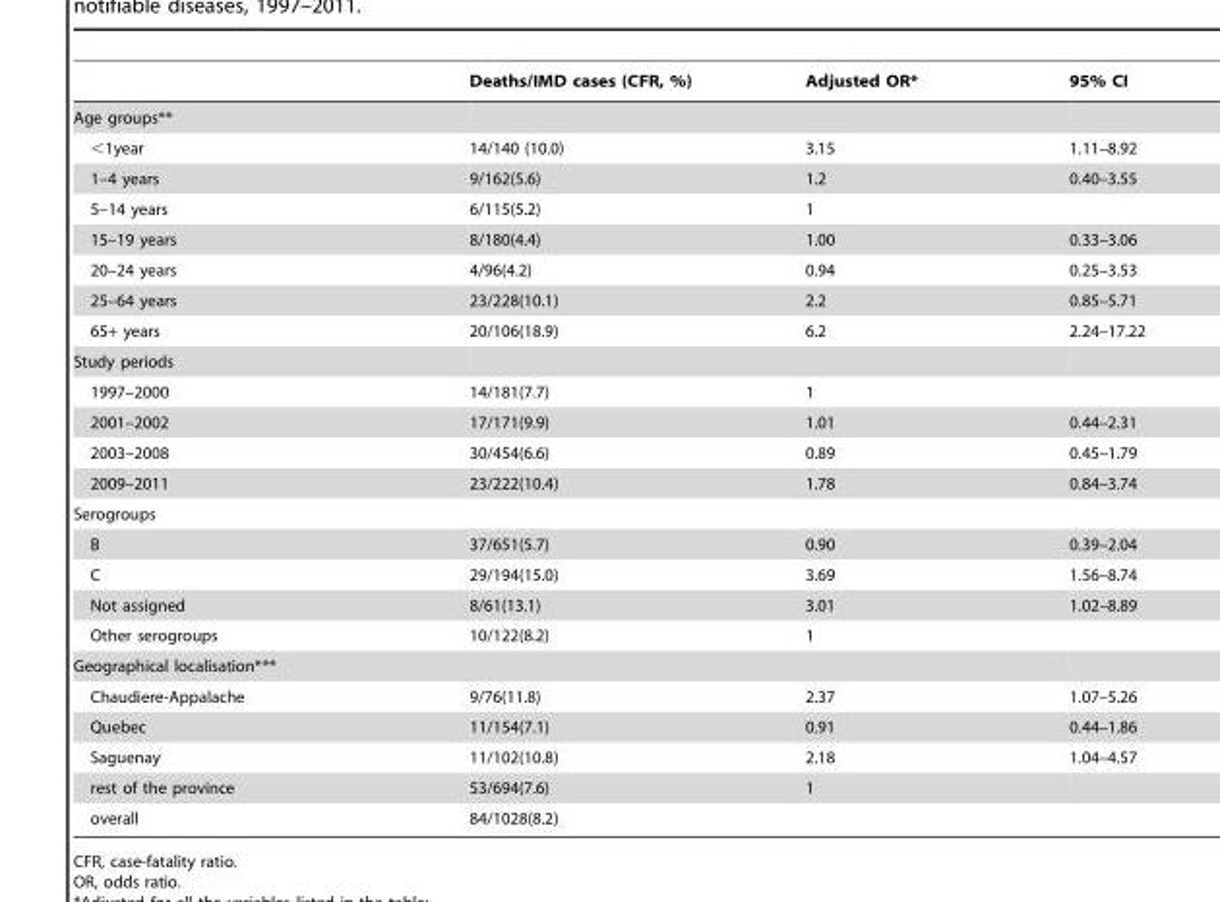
<table><thead><tr><td></td><td>Deaths/IMD cases (CFR, %)</td><td>Adjusted OR*</td><td>95% CI</td></tr></thead><tbody><tr><td colspan="4">Age groups**</td></tr><tr><td>&lt;1year</td><td>14/140 (10.0)</td><td>3.15</td><td>1.11–8.92</td></tr><tr><td>1–4 years</td><td>9/162(5.6)</td><td>1.2</td><td>0.40–3.55</td></tr><tr><td>5–14 years</td><td>6/115(5.2)</td><td>1</td><td></td></tr><tr><td>15–19 years</td><td>8/180(4.4)</td><td>1.00</td><td>0.33–3.06</td></tr><tr><td>20–24 years</td><td>4/96(4.2)</td><td>0.94</td><td>0.25–3.53</td></tr><tr><td>25–64 years</td><td>23/228(10.1)</td><td>2.2</td><td>0.85–5.71</td></tr><tr><td>65+ years</td><td>20/106(18.9)</td><td>6.2</td><td>2.24–17.22</td></tr><tr><td colspan="4">Study periods</td></tr><tr><td>1997–2000</td><td>14/181(7.7)</td><td>1</td><td></td></tr><tr><td>2001–2002</td><td>17/171(9.9)</td><td>1.01</td><td>0.44–2.31</td></tr><tr><td>2003–2008</td><td>30/454(6.6)</td><td>0.89</td><td>0.45–1.79</td></tr><tr><td>2009–2011</td><td>23/222(10.4)</td><td>1.78</td><td>0.84–3.74</td></tr><tr><td colspan="4">Serogroups</td></tr><tr><td>B</td><td>37/651(5.7)</td><td>0.90</td><td>0.39–2.04</td></tr><tr><td>C</td><td>29/194(15.0)</td><td>3.69</td><td>1.56–8.74</td></tr><tr><td>Not assigned</td><td>8/61(13.1)</td><td>3.01</td><td>1.02–8.89</td></tr><tr><td>Other serogroups</td><td>10/122(8.2)</td><td>1</td><td></td></tr><tr><td colspan="4">Geographical localisation***</td></tr><tr><td>Chaudiere-Appalache</td><td>9/76(11.8)</td><td>2.37</td><td>1.07–5.26</td></tr><tr><td>Quebec</td><td>11/154(7.1)</td><td>0.91</td><td>0.44–1.86</td></tr><tr><td>Saguenay</td><td>11/102(10.8)</td><td>2.18</td><td>1.04–4.57</td></tr><tr><td>rest of the province</td><td>53/694(7.6)</td><td>1</td><td></td></tr><tr><td>overall</td><td>84/1028(8.2)</td><td></td><td></td></tr></tbody></table>